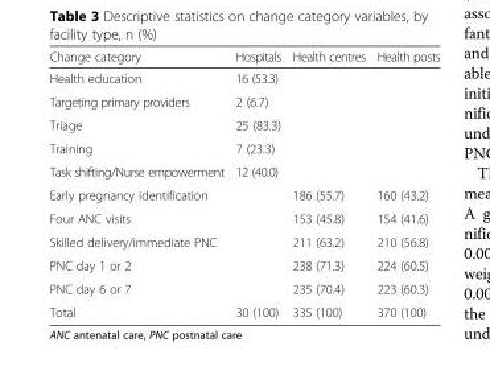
<table><thead><tr><td>Change category</td><td>Hospitals</td><td>Health centres</td><td>Health posts</td></tr></thead><tbody><tr><td>Health education</td><td>16 (53.3)</td><td></td><td></td></tr><tr><td>Targeting primary providers</td><td>2 (6.7)</td><td></td><td></td></tr><tr><td>Triage</td><td>25 (83.3)</td><td></td><td></td></tr><tr><td>Training</td><td>7 (23.3)</td><td></td><td></td></tr><tr><td>Task shifting/Nurse empowerment</td><td>12 (40.0)</td><td></td><td></td></tr><tr><td>Early pregnancy identification</td><td></td><td>186 (55.7)</td><td>160 (43.2)</td></tr><tr><td>Four ANC visits</td><td></td><td>153 (45.8)</td><td>154 (41.6)</td></tr><tr><td>Skilled delivery/immediate PNC</td><td></td><td>211 (63.2)</td><td>210 (56.8)</td></tr><tr><td>PNC day 1 or 2</td><td></td><td>238 (71.3)</td><td>224 (60.5)</td></tr><tr><td>PNC day 6 or 7</td><td></td><td>235 (70.4)</td><td>223 (60.3)</td></tr><tr><td>Total</td><td>30 (100)</td><td>335 (100)</td><td>370 (100)</td></tr></tbody></table>